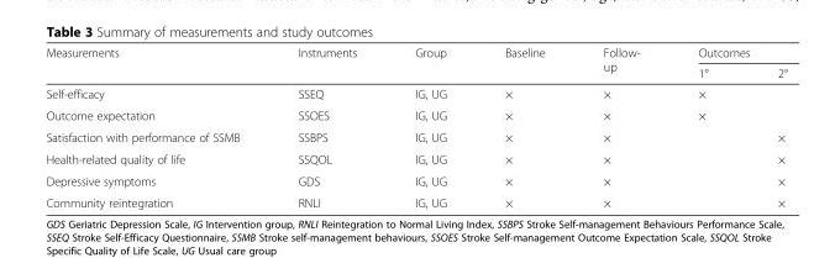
<table><thead><tr><td rowspan="2">Measurements</td><td rowspan="2">Instruments</td><td rowspan="2">Group</td><td rowspan="2">Baseline</td><td rowspan="2">Follow- up</td><td colspan="2">Outcomes</td></tr><tr><td>1°</td><td>2°</td></tr></thead><tbody><tr><td>Self-efficacy</td><td>SSEQ</td><td>IG, UG</td><td>×</td><td>×</td><td>×</td><td></td></tr><tr><td>Outcome expectation</td><td>SSOES</td><td>IG, UG</td><td>×</td><td>×</td><td>×</td><td></td></tr><tr><td>Satisfaction with performance of SSMB</td><td>SSBPS</td><td>IG, UG</td><td>×</td><td>×</td><td></td><td>×</td></tr><tr><td>Health-related quality of life</td><td>SSQOL</td><td>IG, UG</td><td>×</td><td>×</td><td></td><td>×</td></tr><tr><td>Depressive symptoms</td><td>GDS</td><td>IG, UG</td><td>×</td><td>×</td><td></td><td>×</td></tr><tr><td>Community reintegration</td><td>RNLI</td><td>IG, UG</td><td>×</td><td>×</td><td></td><td>×</td></tr></tbody></table>